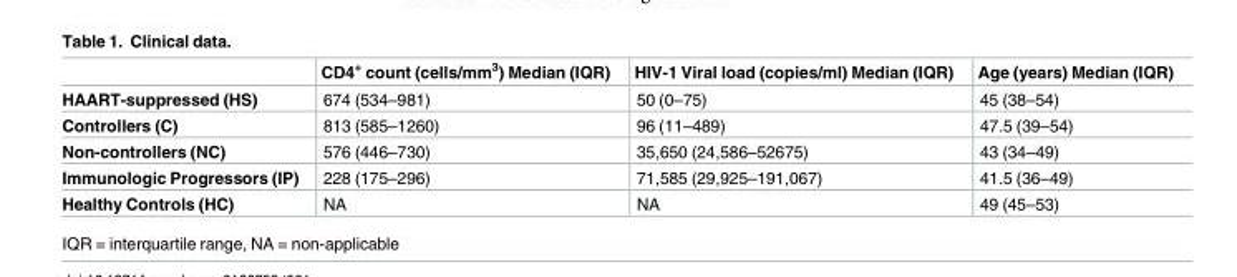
<table><thead><tr><td></td><td>CD4<sup>+</sup> count (cells/mm<sup>3</sup>) Median (IQR)</td><td>HIV-1 Viral load (copies/ml) Median (IQR)</td><td>Age (years) Median (IQR)</td></tr></thead><tbody><tr><td>HAART-suppressed (HS)</td><td>674 (534–981)</td><td>50 (0–75)</td><td>45 (38–54)</td></tr><tr><td>Controllers (C)</td><td>813 (585–1260)</td><td>96 (11–489)</td><td>47.5 (39–54)</td></tr><tr><td>Non-controllers (NC)</td><td>576 (446–730)</td><td>35,650 (24,586–52675)</td><td>43 (34–49)</td></tr><tr><td>Immunologic Progressors (IP)</td><td>228 (175–296)</td><td>71,585 (29,925–191,067)</td><td>41.5 (36–49)</td></tr><tr><td>Healthy Controls (HC)</td><td>NA</td><td>NA</td><td>49 (45–53)</td></tr></tbody></table>